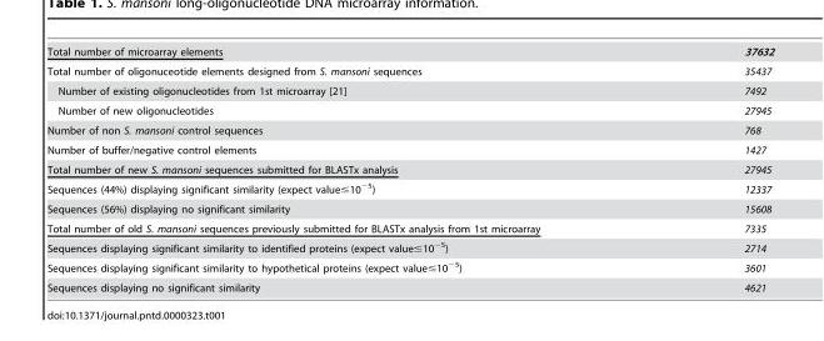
<table><tbody><tr><td>Total number of microarray elements</td><td>37632</td></tr><tr><td>Total number of oligonuceotide elements designed from S. mansoni sequences</td><td>35437</td></tr><tr><td>Number of existing oligonucleotides from 1st microarray [21]</td><td>7492</td></tr><tr><td>Number of new oligonucleotides</td><td>27945</td></tr><tr><td>Number of non S. mansoni control sequences</td><td>768</td></tr><tr><td>Number of buffer/negative control elements</td><td>1427</td></tr><tr><td>Total number of new S. mansoni sequences submitted for BLASTx analysis</td><td>27945</td></tr><tr><td>Sequences (44%) displaying significant similarity (expect value≤10<sup>−5</sup>)</td><td>12337</td></tr><tr><td>Sequences (56%) displaying no significant similarity</td><td>15608</td></tr><tr><td>Total number of old S. mansoni sequences previously submitted for BLASTx analysis from 1st microarray</td><td>7335</td></tr><tr><td>Sequences displaying significant similarity to identified proteins (expect value≤10<sup>−5</sup>)</td><td>2714</td></tr><tr><td>Sequences displaying significant similarity to hypothetical proteins (expect value≤10<sup>−5</sup>)</td><td>3601</td></tr><tr><td>Sequences displaying no significant similarity</td><td>4621</td></tr></tbody></table>